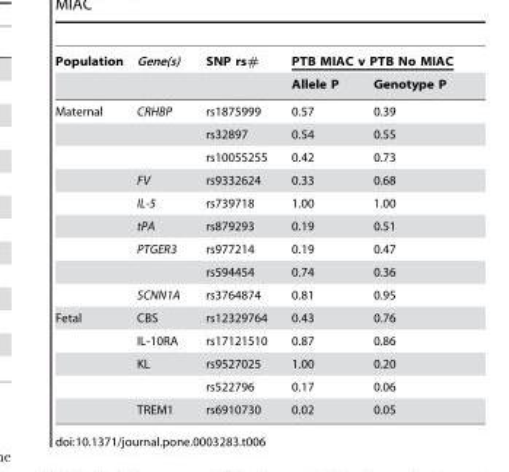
<table><thead><tr><td rowspan="2">Population</td><td rowspan="2">Gene(s)</td><td rowspan="2">SNP rs#</td><td colspan="2">PTB MIAC v PTB No MIAC</td></tr><tr><td>Allele P</td><td>Genotype P</td></tr></thead><tbody><tr><td rowspan="9">Maternal</td><td>CRHBP</td><td>rs1875999</td><td>0.57</td><td>0.39</td></tr><tr><td></td><td>rs32897</td><td>0.54</td><td>0.55</td></tr><tr><td></td><td>rs10055255</td><td>0.42</td><td>0.73</td></tr><tr><td>FV</td><td>rs9332624</td><td>0.33</td><td>0.68</td></tr><tr><td>IL-5</td><td>rs739718</td><td>1.00</td><td>1.00</td></tr><tr><td>tPA</td><td>rs879293</td><td>0.19</td><td>0.51</td></tr><tr><td>PTGER3</td><td>rs977214</td><td>0.19</td><td>0.47</td></tr><tr><td></td><td>rs594454</td><td>0.74</td><td>0.36</td></tr><tr><td>SCNN1A</td><td>rs3764874</td><td>0.81</td><td>0.95</td></tr><tr><td rowspan="5">Fetal</td><td>CBS</td><td>rs12329764</td><td>0.43</td><td>0.76</td></tr><tr><td>IL-10RA</td><td>rs17121510</td><td>0.87</td><td>0.86</td></tr><tr><td>KL</td><td>rs9527025</td><td>1.00</td><td>0.20</td></tr><tr><td></td><td>rs522796</td><td>0.17</td><td>0.06</td></tr><tr><td>TREM1</td><td>rs6910730</td><td>0.02</td><td>0.05</td></tr></tbody></table>